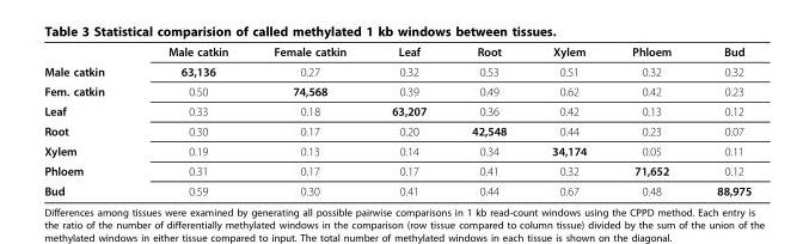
<table><thead><tr><td></td><td>Male catkin</td><td>Female catkin</td><td>Leaf</td><td>Root</td><td>Xylem</td><td>Phloem</td><td>Bud</td></tr></thead><tbody><tr><td>Male catkin</td><td>63,136</td><td>0.27</td><td>0.32</td><td>0.53</td><td>0.51</td><td>0.32</td><td>0.32</td></tr><tr><td>Fem. catkin</td><td>0.50</td><td>74,568</td><td>0.39</td><td>0.49</td><td>0.62</td><td>0.42</td><td>0.23</td></tr><tr><td>Leaf</td><td>0.33</td><td>0.18</td><td>63,207</td><td>0.36</td><td>0.42</td><td>0.13</td><td>0.12</td></tr><tr><td>Root</td><td>0.30</td><td>0.17</td><td>0.20</td><td>42,548</td><td>0.44</td><td>0.23</td><td>0.07</td></tr><tr><td>Xylem</td><td>0.19</td><td>0.13</td><td>0.14</td><td>0.34</td><td>34,174</td><td>0.05</td><td>0.11</td></tr><tr><td>Phloem</td><td>0.31</td><td>0.17</td><td>0.17</td><td>0.41</td><td>0.32</td><td>71,652</td><td>0.12</td></tr><tr><td>Bud</td><td>0.59</td><td>0.30</td><td>0.41</td><td>0.44</td><td>0.67</td><td>0.48</td><td>88,975</td></tr></tbody></table>